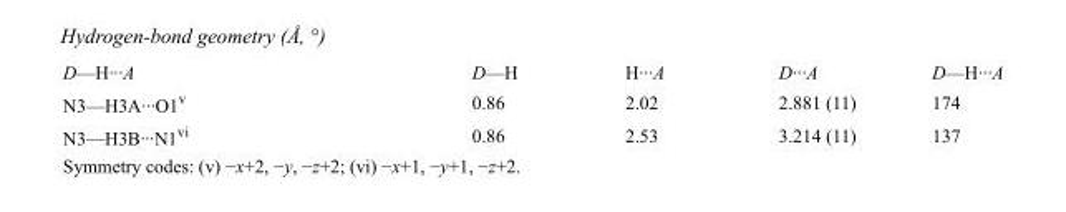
<table><tbody><tr><td>D—H···A</td><td>D—H</td><td>H···A</td><td>D···A</td><td>D—H···A</td></tr><tr><td>N3—H3A···O1<sup>v</sup></td><td>0.86</td><td>2.02</td><td>2.881 (11)</td><td>174</td></tr><tr><td>N3—H3B···N1<sup>vi</sup></td><td>0.86</td><td>2.53</td><td>3.214 (11)</td><td>137</td></tr></tbody></table>